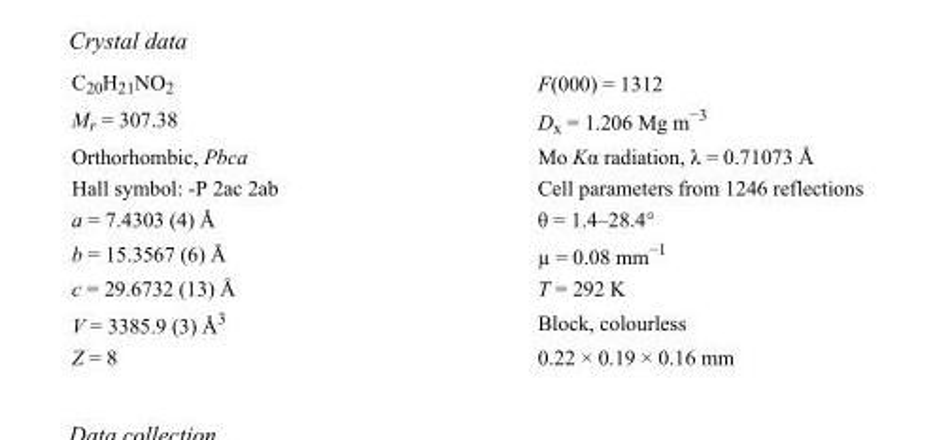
<table><tbody><tr><td>C<sub>20</sub>H<sub>21</sub>NO<sub>2</sub></td><td>F(000) = 1312</td></tr><tr><td>M<sub>r</sub> = 307.38</td><td>D<sub>x</sub> = 1.206 Mg m<sup>−3</sup></td></tr><tr><td>Orthorhombic, Pbca</td><td>Mo Kα radiation, λ = 0.71073 Å</td></tr><tr><td>Hall symbol: -P 2ac 2ab</td><td>Cell parameters from 1246 reflections</td></tr><tr><td>a = 7.4303 (4) Å</td><td>θ = 1.4–28.4°</td></tr><tr><td>b = 15.3567 (6) Å</td><td>µ = 0.08 mm<sup>−1</sup></td></tr><tr><td>c = 29.6732 (13) Å</td><td>T = 292 K</td></tr><tr><td>V = 3385.9 (3) Å<sup>3</sup></td><td>Block, colourless</td></tr><tr><td>Z = 8</td><td>0.22 × 0.19 × 0.16 mm</td></tr></tbody></table>